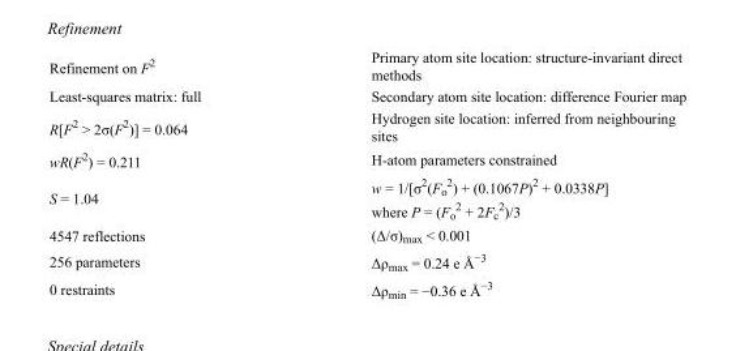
<table><tbody><tr><td>Refinement on F<sup>2</sup></td><td>Primary atom site location: structure-invariant direct methods</td></tr><tr><td>Least-squares matrix: full</td><td>Secondary atom site location: difference Fourier map</td></tr><tr><td>R[F<sup>2</sup> &gt; 2σ(F<sup>2</sup>)] = 0.064</td><td>Hydrogen site location: inferred from neighbouring sites</td></tr><tr><td>wR(F<sup>2</sup>) = 0.211</td><td>H-atom parameters constrained</td></tr><tr><td>S = 1.04</td><td>w = 1/[σ<sup>2</sup>(F<sub>o</sub> <sup>2</sup>) + (0.1067P)<sup>2</sup> + 0.0338P] where P = (F<sub>o</sub> <sup>2</sup> + 2F<sub>c</sub> <sup>2</sup>)/3</td></tr><tr><td>4547 reflections</td><td>(Δ/σ)<sub>max</sub> &lt; 0.001</td></tr><tr><td>256 parameters</td><td>Δρ<sub>max</sub> = 0.24 e Å<sup>−3</sup></td></tr><tr><td>0 restraints</td><td>Δρ<sub>min</sub> = −0.36 e Å<sup>−3</sup></td></tr></tbody></table>